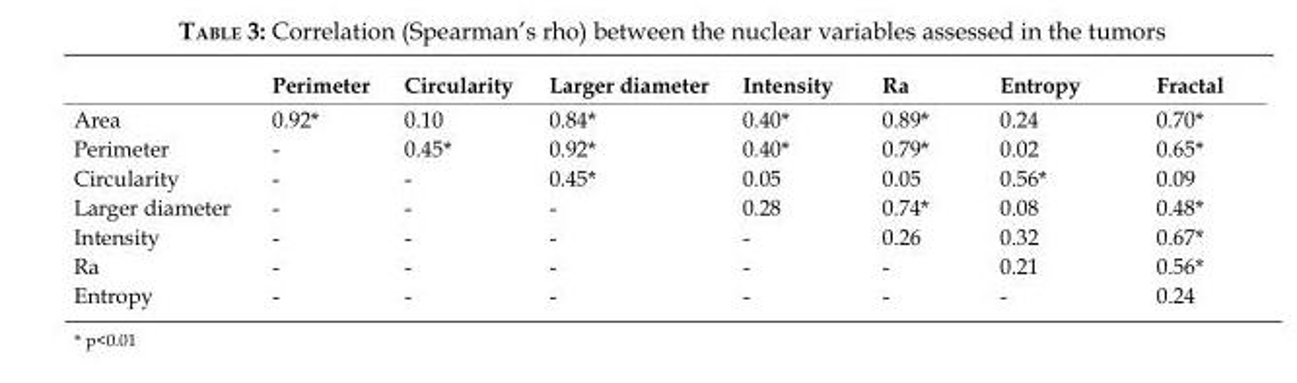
<table><thead><tr><td></td><td>Perimeter</td><td>Circularity</td><td>Larger diameter</td><td>Intensity</td><td>Ra</td><td>Entropy</td><td>Fractal</td></tr></thead><tbody><tr><td>Area</td><td>0.92*</td><td>0.10</td><td>0.84*</td><td>0.40*</td><td>0.89*</td><td>0.24</td><td>0.70*</td></tr><tr><td>Perimeter</td><td>-</td><td>0.45*</td><td>0.92*</td><td>0.40*</td><td>0.79*</td><td>0.02</td><td>0.65*</td></tr><tr><td>Circularity</td><td>-</td><td>-</td><td>0.45*</td><td>0.05</td><td>0.05</td><td>0.56*</td><td>0.09</td></tr><tr><td>Larger diameter</td><td>-</td><td>-</td><td>-</td><td>0.28</td><td>0.74*</td><td>0.08</td><td>0.48*</td></tr><tr><td>Intensity</td><td>-</td><td>-</td><td>-</td><td>-</td><td>0.26</td><td>0.32</td><td>0.67*</td></tr><tr><td>Ra</td><td>-</td><td>-</td><td>-</td><td>-</td><td>-</td><td>0.21</td><td>0.56*</td></tr><tr><td>Entropy</td><td>-</td><td>-</td><td>-</td><td>-</td><td>-</td><td>-</td><td>0.24</td></tr></tbody></table>